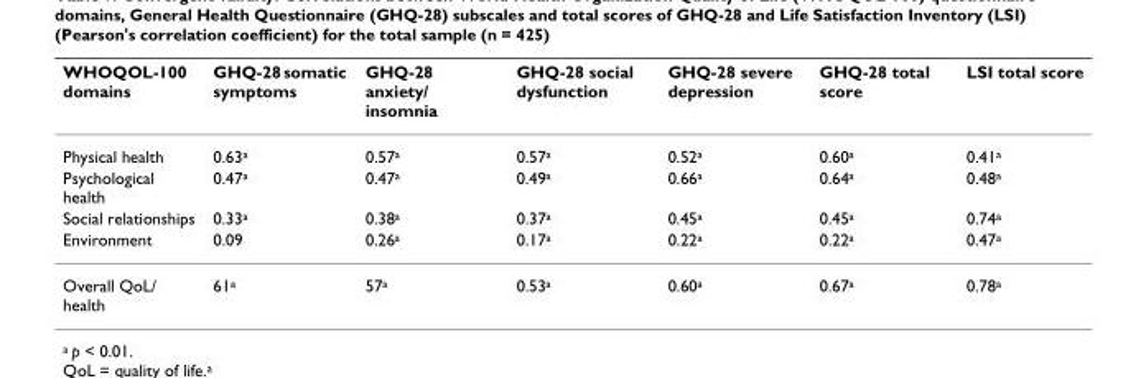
<table><thead><tr><td>WHOQOL-100 domains</td><td>GHQ-28 somatic symptoms</td><td>GHQ-28 anxiety/ insomnia</td><td>GHQ-28 social dysfunction</td><td>GHQ-28 severe depression</td><td>GHQ-28 total score</td><td>LSI total score</td></tr></thead><tbody><tr><td>Physical health</td><td>0.63<sup>a</sup></td><td>0.57<sup>a</sup></td><td>0.57<sup>a</sup></td><td>0.52<sup>a</sup></td><td>0.60<sup>a</sup></td><td>0.41<sup>a</sup></td></tr><tr><td>Psychological health</td><td>0.47<sup>a</sup></td><td>0.47<sup>a</sup></td><td>0.49<sup>a</sup></td><td>0.66<sup>a</sup></td><td>0.64<sup>a</sup></td><td>0.48<sup>a</sup></td></tr><tr><td>Social relationships</td><td>0.33<sup>a</sup></td><td>0.38<sup>a</sup></td><td>0.37<sup>a</sup></td><td>0.45<sup>a</sup></td><td>0.45<sup>a</sup></td><td>0.74<sup>a</sup></td></tr><tr><td>Environment</td><td>0.09</td><td>0.26<sup>a</sup></td><td>0.17<sup>a</sup></td><td>0.22<sup>a</sup></td><td>0.22<sup>a</sup></td><td>0.47<sup>a</sup></td></tr><tr><td>Overall QoL/ health</td><td>61<sup>a</sup></td><td>57<sup>a</sup></td><td>0.53<sup>a</sup></td><td>0.60<sup>a</sup></td><td>0.67<sup>a</sup></td><td>0.78<sup>a</sup></td></tr></tbody></table>